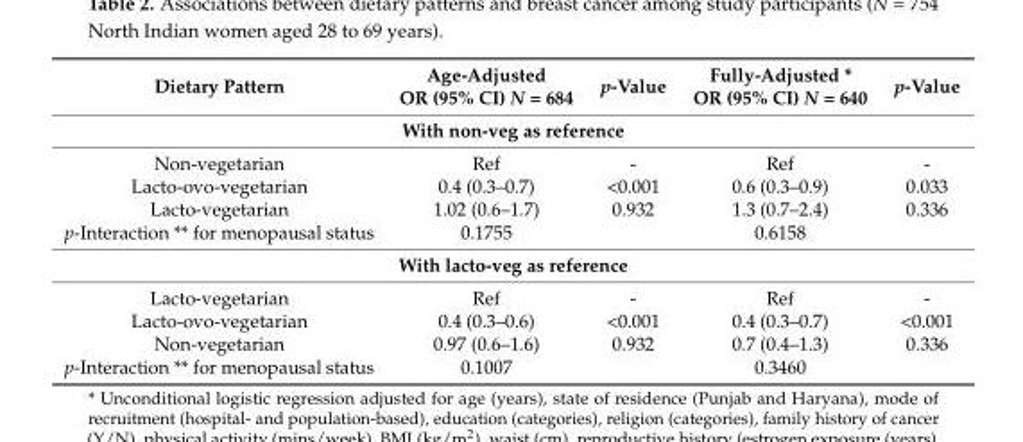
<table><thead><tr><td>Dietary Pattern</td><td>Age-Adjusted OR (95% CI) N = 684</td><td>p-Value</td><td>Fully-Adjusted * OR (95% CI) N = 640</td><td>p-Value</td></tr></thead><tbody><tr><td colspan="5">With non-veg as reference</td></tr><tr><td>Non-vegetarian</td><td>Ref</td><td>-</td><td>Ref</td><td>-</td></tr><tr><td>Lacto-ovo-vegetarian</td><td>0.4 (0.3–0.7)</td><td>&lt;0.001</td><td>0.6 (0.3–0.9)</td><td>0.033</td></tr><tr><td>Lacto-vegetarian</td><td>1.02 (0.6–1.7)</td><td>0.932</td><td>1.3 (0.7–2.4)</td><td>0.336</td></tr><tr><td>p-Interaction ** for menopausal status</td><td>0.1755</td><td></td><td>0.6158</td><td></td></tr><tr><td colspan="5">With lacto-veg as reference</td></tr><tr><td>Lacto-vegetarian</td><td>Ref</td><td>-</td><td>Ref</td><td>-</td></tr><tr><td>Lacto-ovo-vegetarian</td><td>0.4 (0.3–0.6)</td><td>&lt;0.001</td><td>0.4 (0.3–0.7)</td><td>&lt;0.001</td></tr><tr><td>Non-vegetarian</td><td>0.97 (0.6–1.6)</td><td>0.932</td><td>0.7 (0.4–1.3)</td><td>0.336</td></tr><tr><td>p-Interaction ** for menopausal status</td><td>0.1007</td><td></td><td>0.3460</td><td></td></tr></tbody></table>